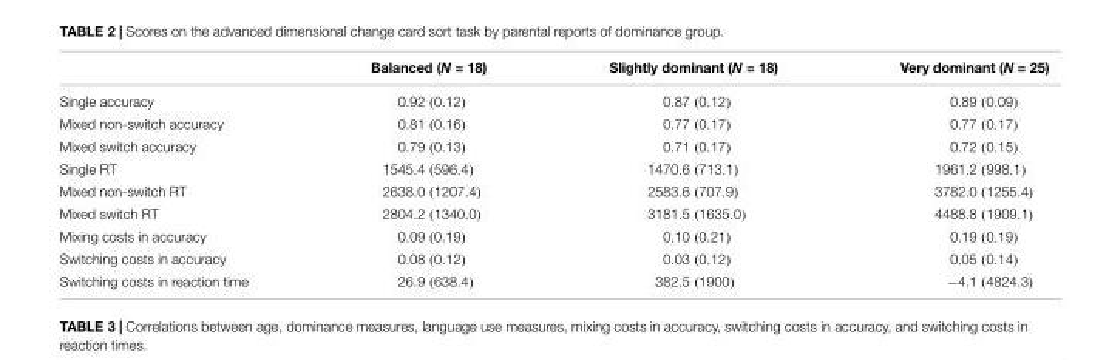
<table><thead><tr><td></td><td>Balanced (N = 18)</td><td>Slightly dominant (N = 18)</td><td>Very dominant (N = 25)</td></tr></thead><tbody><tr><td>Single accuracy</td><td>0.92 (0.12)</td><td>0.87 (0.12)</td><td>0.89 (0.09)</td></tr><tr><td>Mixed non-switch accuracy</td><td>0.81 (0.16)</td><td>0.77 (0.17)</td><td>0.77 (0.17)</td></tr><tr><td>Mixed switch accuracy</td><td>0.79 (0.13)</td><td>0.71 (0.17)</td><td>0.72 (0.15)</td></tr><tr><td>Single RT</td><td>1545.4 (596.4)</td><td>1470.6 (713.1)</td><td>1961.2 (998.1)</td></tr><tr><td>Mixed non-switch RT</td><td>2638.0 (1207.4)</td><td>2583.6 (707.9)</td><td>3782.0 (1255.4)</td></tr><tr><td>Mixed switch RT</td><td>2804.2 (1340.0)</td><td>3181.5 (1635.0)</td><td>4488.8 (1909.1)</td></tr><tr><td>Mixing costs in accuracy</td><td>0.09 (0.19)</td><td>0.10 (0.21)</td><td>0.19 (0.19)</td></tr><tr><td>Switching costs in accuracy</td><td>0.08 (0.12)</td><td>0.03 (0.12)</td><td>0.05 (0.14)</td></tr><tr><td>Switching costs in reaction time</td><td>26.9 (638.4)</td><td>382.5 (1900)</td><td>−4.1 (4824.3)</td></tr></tbody></table>